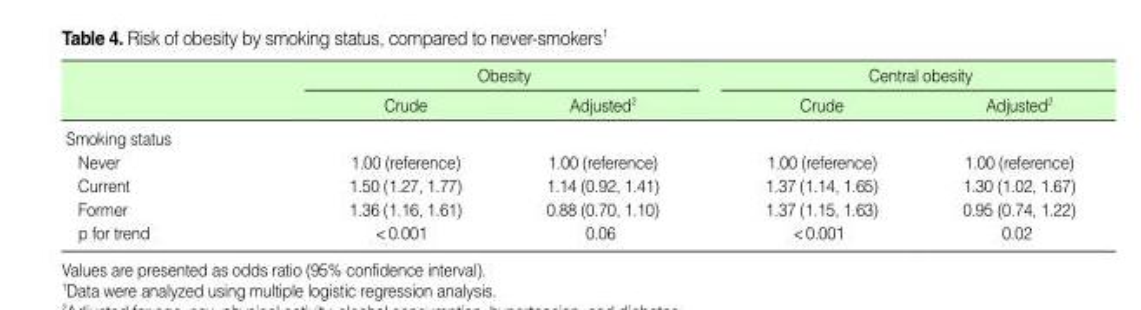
<table><thead><tr><td rowspan="2"></td><td colspan="2">Obesity</td><td colspan="2">Central obesity</td></tr><tr><td>Crude</td><td>Adjusted<sup>2</sup></td><td>Crude</td><td>Adjusted<sup>2</sup></td></tr></thead><tbody><tr><td colspan="5">Smoking status</td></tr><tr><td>Never</td><td>1.00 (reference)</td><td>1.00 (reference)</td><td>1.00 (reference)</td><td>1.00 (reference)</td></tr><tr><td>Current</td><td>1.50 (1.27, 1.77)</td><td>1.14 (0.92, 1.41)</td><td>1.37 (1.14, 1.65)</td><td>1.30 (1.02, 1.67)</td></tr><tr><td>Former</td><td>1.36 (1.16, 1.61)</td><td>0.88 (0.70, 1.10)</td><td>1.37 (1.15, 1.63)</td><td>0.95 (0.74, 1.22)</td></tr><tr><td>p for trend</td><td>&lt;0.001</td><td>0.06</td><td>&lt;0.001</td><td>0.02</td></tr></tbody></table>